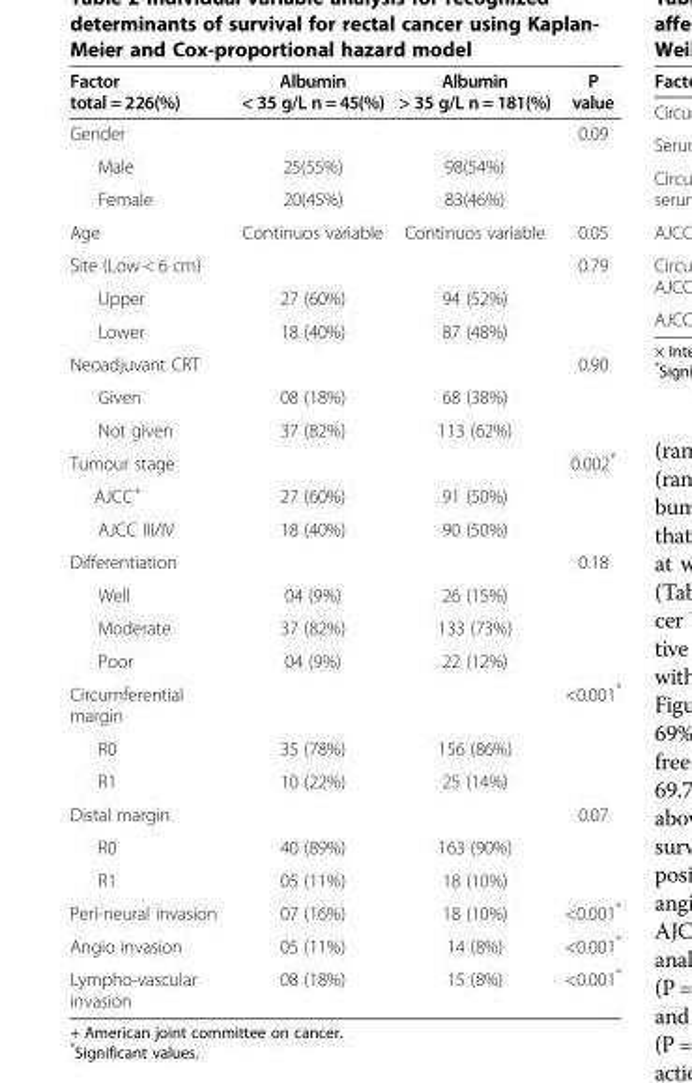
<table><thead><tr><td>Factor total = 226(%)</td><td>Albumin &lt; 35 g/L n = 45(%)</td><td>Albumin &gt; 35 g/L n = 181(%)</td><td>P value</td></tr></thead><tbody><tr><td>Gender</td><td></td><td></td><td>0.09</td></tr><tr><td>Male</td><td>25(55%)</td><td>98(54%)</td><td></td></tr><tr><td>Female</td><td>20(45%)</td><td>83(46%)</td><td></td></tr><tr><td>Age</td><td>Continuos variable</td><td>Continuos variable</td><td>0.05</td></tr><tr><td>Site (Low &lt; 6 cm)</td><td></td><td></td><td>0.79</td></tr><tr><td>Upper</td><td>27 (60%)</td><td>94 (52%)</td><td></td></tr><tr><td>Lower</td><td>18 (40%)</td><td>87 (48%)</td><td></td></tr><tr><td>Neoadjuvant CRT</td><td></td><td></td><td>0.90</td></tr><tr><td>Given</td><td>08 (18%)</td><td>68 (38%)</td><td></td></tr><tr><td>Not given</td><td>37 (82%)</td><td>113 (62%)</td><td></td></tr><tr><td>Tumour stage</td><td></td><td></td><td>0.002*</td></tr><tr><td>AJCC<sup>+</sup></td><td>27 (60%)</td><td>91 (50%)</td><td></td></tr><tr><td>AJCC III/IV</td><td>18 (40%)</td><td>90 (50%)</td><td></td></tr><tr><td>Differentiation</td><td></td><td></td><td>0.18</td></tr><tr><td>Well</td><td>04 (9%)</td><td>26 (15%)</td><td></td></tr><tr><td>Moderate</td><td>37 (82%)</td><td>133 (73%)</td><td></td></tr><tr><td>Poor</td><td>04 (9%)</td><td>22 (12%)</td><td></td></tr><tr><td>Circumferential margin</td><td></td><td></td><td>&lt;0.001*</td></tr><tr><td>R0</td><td>35 (78%)</td><td>156 (86%)</td><td></td></tr><tr><td>R1</td><td>10 (22%)</td><td>25 (14%)</td><td></td></tr><tr><td>Distal margin</td><td></td><td></td><td>0.07</td></tr><tr><td>R0</td><td>40 (89%)</td><td>163 (90%)</td><td></td></tr><tr><td>R1</td><td>05 (11%)</td><td>18 (10%)</td><td></td></tr><tr><td>Peri-neural invasion</td><td>07 (16%)</td><td>18 (10%)</td><td>&lt;0.001*</td></tr><tr><td>Angio invasion</td><td>05 (11%)</td><td>14 (8%)</td><td>&lt;0.001*</td></tr><tr><td>Lympho-vascular invasion</td><td>08 (18%)</td><td>15 (8%)</td><td>&lt;0.001*</td></tr></tbody></table>